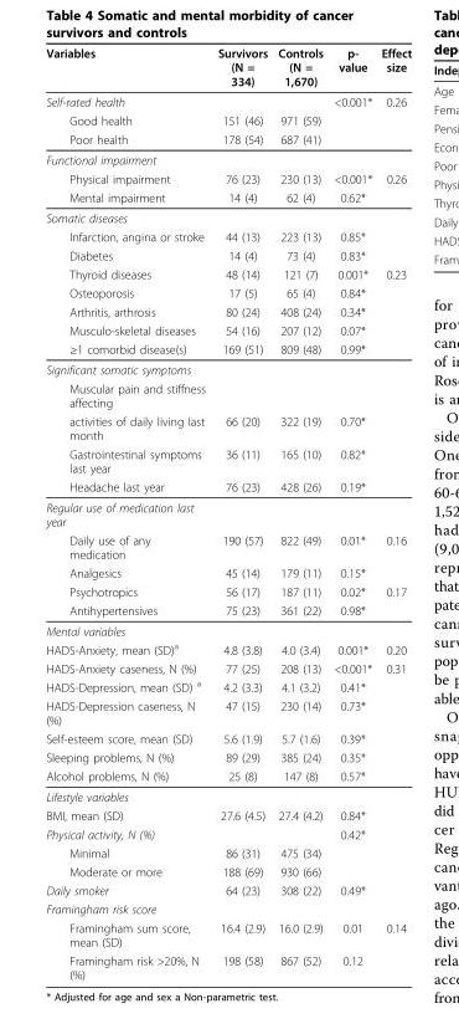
<table><thead><tr><td>Variables</td><td>Survivors (N = 334)</td><td>Controls (N = 1,670)</td><td>p- value</td><td>Effect size</td></tr></thead><tbody><tr><td>Self-rated health</td><td></td><td></td><td>&lt;0.001*</td><td>0.26</td></tr><tr><td>Good health</td><td>151 (46)</td><td>971 (59)</td><td></td><td></td></tr><tr><td>Poor health</td><td>178 (54)</td><td>687 (41)</td><td></td><td></td></tr><tr><td colspan="5">Functional impairment</td></tr><tr><td>Physical impairment</td><td>76 (23)</td><td>230 (13)</td><td>&lt;0.001*</td><td>0.26</td></tr><tr><td>Mental impairment</td><td>14 (4)</td><td>62 (4)</td><td>0.62*</td><td></td></tr><tr><td colspan="5">Somatic diseases</td></tr><tr><td>Infarction, angina or stroke</td><td>44 (13)</td><td>223 (13)</td><td>0.85*</td><td></td></tr><tr><td>Diabetes</td><td>14 (4)</td><td>73 (4)</td><td>0.83*</td><td></td></tr><tr><td>Thyroid diseases</td><td>48 (14)</td><td>121 (7)</td><td>0.001*</td><td>0.23</td></tr><tr><td>Osteoporosis</td><td>17 (5)</td><td>65 (4)</td><td>0.84*</td><td></td></tr><tr><td>Arthritis, arthrosis</td><td>80 (24)</td><td>408 (24)</td><td>0.34*</td><td></td></tr><tr><td>Musculo-skeletal diseases</td><td>54 (16)</td><td>207 (12)</td><td>0.07*</td><td></td></tr><tr><td>≥1 comorbid disease(s)</td><td>169 (51)</td><td>809 (48)</td><td>0.99*</td><td></td></tr><tr><td colspan="5">Significant somatic symptoms</td></tr><tr><td colspan="5">Muscular pain and stiffness affecting</td></tr><tr><td>activities of daily living last month</td><td>66 (20)</td><td>322 (19)</td><td>0.70*</td><td></td></tr><tr><td>Gastrointestinal symptoms last year</td><td>36 (11)</td><td>165 (10)</td><td>0.82*</td><td></td></tr><tr><td>Headache last year</td><td>76 (23)</td><td>428 (26)</td><td>0.19*</td><td></td></tr><tr><td colspan="5">Regular use of medication last year</td></tr><tr><td>Daily use of any medication</td><td>190 (57)</td><td>822 (49)</td><td>0.01*</td><td>0.16</td></tr><tr><td>Analgesics</td><td>45 (14)</td><td>179 (11)</td><td>0.15*</td><td></td></tr><tr><td>Psychotropics</td><td>56 (17)</td><td>187 (11)</td><td>0.02*</td><td>0.17</td></tr><tr><td>Antihypertensives</td><td>75 (23)</td><td>361 (22)</td><td>0.98*</td><td></td></tr><tr><td colspan="5">Mental variables</td></tr><tr><td>HADS-Anxiety, mean (SD)<sup>a</sup></td><td>4.8 (3.8)</td><td>4.0 (3.4)</td><td>0.001*</td><td>0.20</td></tr><tr><td>HADS-Anxiety caseness, N (%)</td><td>77 (25)</td><td>208 (13)</td><td>&lt;0.001*</td><td>0.31</td></tr><tr><td>HADS-Depression, mean (SD) <sup>a</sup></td><td>4.2 (3.3)</td><td>4.1 (3.2)</td><td>0.41*</td><td></td></tr><tr><td>HADS-Depression caseness, N (%)</td><td>47 (15)</td><td>230 (14)</td><td>0.73*</td><td></td></tr><tr><td>Self-esteem score, mean (SD)</td><td>5.6 (1.9)</td><td>5.7 (1.6)</td><td>0.39*</td><td></td></tr><tr><td>Sleeping problems, N (%)</td><td>89 (29)</td><td>385 (24)</td><td>0.35*</td><td></td></tr><tr><td>Alcohol problems, N (%)</td><td>25 (8)</td><td>147 (8)</td><td>0.57*</td><td></td></tr><tr><td colspan="5">Lifestyle variables</td></tr><tr><td>BMI, mean (SD)</td><td>27.6 (4.5)</td><td>27.4 (4.2)</td><td>0.84*</td><td></td></tr><tr><td>Physical activity, N (%)</td><td></td><td></td><td>0.42*</td><td></td></tr><tr><td>Minimal</td><td>86 (31)</td><td>475 (34)</td><td></td><td></td></tr><tr><td>Moderate or more</td><td>188 (69)</td><td>930 (66)</td><td></td><td></td></tr><tr><td>Daily smoker</td><td>64 (23)</td><td>308 (22)</td><td>0.49*</td><td></td></tr><tr><td colspan="5">Framingham risk score</td></tr><tr><td>Framingham sum score, mean (SD)</td><td>16.4 (2.9)</td><td>16.0 (2.9)</td><td>0.01</td><td>0.14</td></tr><tr><td>Framingham risk &gt;20%, N (%)</td><td>198 (58)</td><td>867 (52)</td><td>0.12</td><td></td></tr></tbody></table>